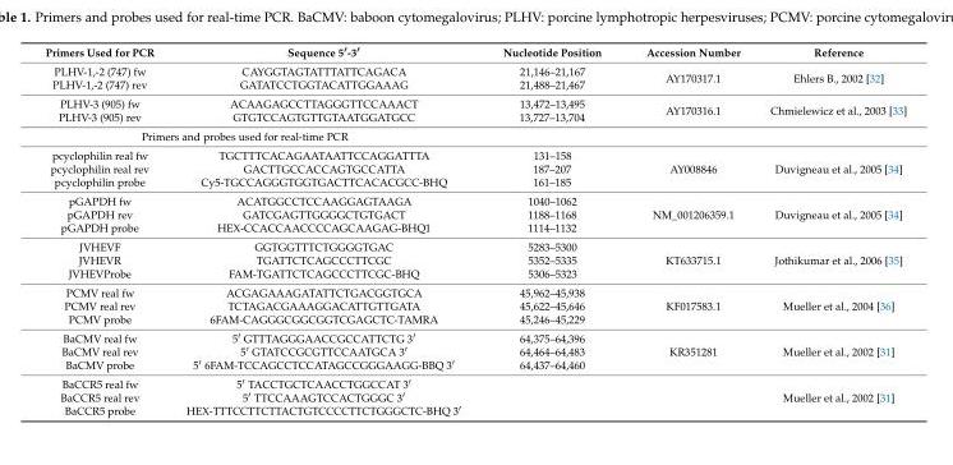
<table><thead><tr><td>Primers Used for PCR</td><td>Sequence 5′-3′</td><td>Nucleotide Position</td><td>Accession Number</td><td>Reference</td></tr></thead><tbody><tr><td>PLHV-1,-2 (747) fw PLHV-1,-2 (747) rev</td><td>CAYGGTAGTATTTATTCAGACA GATATCCTGGTACATTGGAAAG</td><td>21,146–21,167 21,488–21,467</td><td>AY170317.1</td><td>Ehlers B., 2002 [32]</td></tr><tr><td>PLHV-3 (905) fw PLHV-3 (905) rev</td><td>ACAAGAGCCTTAGGGTTCCAAACT GTGTCCAGTGTTGTAATGGATGCC</td><td>13,472–13,495 13,727–13,704</td><td>AY170316.1</td><td>Chmielewicz et al., 2003 [33]</td></tr><tr><td colspan="5">Primers and probes used for real-time PCR</td></tr><tr><td>pcyclophilin real fw pcyclophilin real rev pcyclophilin probe</td><td>TGCTTTCACAGAATAATTCCAGGATTTA GACTTGCCACCAGTGCCATTA Cy5-TGCCAGGGTGGTGACTTCACACGCC-BHQ</td><td>131–158 187–207 161–185</td><td>AY008846</td><td>Duvigneau et al., 2005 [34]</td></tr><tr><td>pGAPDH fw pGAPDH rev pGAPDH probe</td><td>ACATGGCCTCCAAGGAGTAAGA GATCGAGTTGGGGCTGTGACT HEX-CCACCAACCCCAGCAAGAG-BHQ1</td><td>1040–1062 1188–1168 1114–1132</td><td>NM_001206359.1</td><td>Duvigneau et al., 2005 [34]</td></tr><tr><td>JVHEVF JVHEVR JVHEVProbe</td><td>GGTGGTTTCTGGGGTGAC TGATTCTCAGCCCTTCGC FAM-TGATTCTCAGCCCTTCGC-BHQ</td><td>5283–5300 5352–5335 5306–5323</td><td>KT633715.1</td><td>Jothikumar et al., 2006 [35]</td></tr><tr><td>PCMV real fw PCMV real rev PCMV probe</td><td>ACGAGAAAGATATTCTGACGGTGCA TCTAGACGAAAGGACATTGTTGATA 6FAM-CAGGGCGGCGGTCGAGCTC-TAMRA</td><td>45,962–45,938 45,622–45,646 45,246–45,229</td><td>KF017583.1</td><td>Mueller et al., 2004 [36]</td></tr><tr><td>BaCMV real fw BaCMV real rev BaCMV probe</td><td>5′ GTTTAGGGAACCGCCATTCTG 3′ 5′ GTATCCGCGTTCCAATGCA 3′ 5′ 6FAM-TCCAGCCTCCATAGCCGGGAAGG-BBQ 3′</td><td>64,375–64,396 64,464–64,483 64,437–64,460</td><td>KR351281</td><td>Mueller et al., 2002 [31]</td></tr><tr><td>BaCCR5 real fw BaCCR5 real rev BaCCR5 probe</td><td>5′ TACCTGCTCAACCTGGCCAT 3′ 5′ TTCCAAAGTCCACTGGGC 3′ HEX-TTTCCTTCTTACTGTCCCCTTCTGGGCTC-BHQ 3′</td><td></td><td></td><td>Mueller et al., 2002 [31]</td></tr></tbody></table>